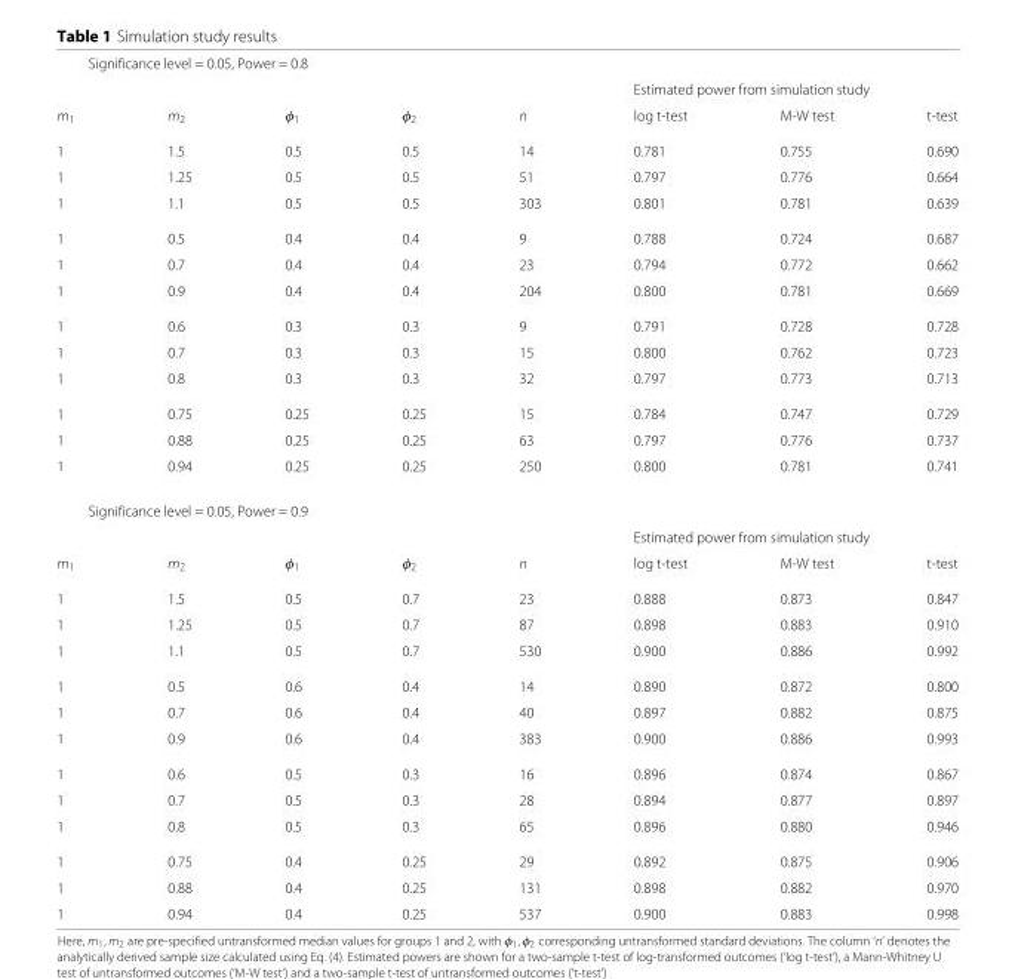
<table><tbody><tr><td colspan="8">Significance level = 0.05, Power = 0.8</td></tr><tr><td></td><td></td><td></td><td></td><td></td><td colspan="3">Estimated power from simulation study</td></tr><tr><td>m<sub>1</sub></td><td>m<sub>2</sub></td><td>φ<sub>1</sub></td><td>φ<sub>2</sub></td><td>n</td><td>log t-test</td><td>M-W test</td><td>t-test</td></tr><tr><td>1</td><td>1.5</td><td>0.5</td><td>0.5</td><td>14</td><td>0.781</td><td>0.755</td><td>0.690</td></tr><tr><td>1</td><td>1.25</td><td>0.5</td><td>0.5</td><td>51</td><td>0.797</td><td>0.776</td><td>0.664</td></tr><tr><td>1</td><td>1.1</td><td>0.5</td><td>0.5</td><td>303</td><td>0.801</td><td>0.781</td><td>0.639</td></tr><tr><td>1</td><td>0.5</td><td>0.4</td><td>0.4</td><td>9</td><td>0.788</td><td>0.724</td><td>0.687</td></tr><tr><td>1</td><td>0.7</td><td>0.4</td><td>0.4</td><td>23</td><td>0.794</td><td>0.772</td><td>0.662</td></tr><tr><td>1</td><td>0.9</td><td>0.4</td><td>0.4</td><td>204</td><td>0.800</td><td>0.781</td><td>0.669</td></tr><tr><td>1</td><td>0.6</td><td>0.3</td><td>0.3</td><td>9</td><td>0.791</td><td>0.728</td><td>0.728</td></tr><tr><td>1</td><td>0.7</td><td>0.3</td><td>0.3</td><td>15</td><td>0.800</td><td>0.762</td><td>0.723</td></tr><tr><td>1</td><td>0.8</td><td>0.3</td><td>0.3</td><td>32</td><td>0.797</td><td>0.773</td><td>0.713</td></tr><tr><td>1</td><td>0.75</td><td>0.25</td><td>0.25</td><td>15</td><td>0.784</td><td>0.747</td><td>0.729</td></tr><tr><td>1</td><td>0.88</td><td>0.25</td><td>0.25</td><td>63</td><td>0.797</td><td>0.776</td><td>0.737</td></tr><tr><td>1</td><td>0.94</td><td>0.25</td><td>0.25</td><td>250</td><td>0.800</td><td>0.781</td><td>0.741</td></tr><tr><td colspan="8">Significance level = 0.05, Power = 0.9</td></tr><tr><td></td><td></td><td></td><td></td><td></td><td colspan="3">Estimated power from simulation study</td></tr><tr><td>m<sub>1</sub></td><td>m<sub>2</sub></td><td>φ<sub>1</sub></td><td>φ<sub>2</sub></td><td>n</td><td>log t-test</td><td>M-W test</td><td>t-test</td></tr><tr><td>1</td><td>1.5</td><td>0.5</td><td>0.7</td><td>23</td><td>0.888</td><td>0.873</td><td>0.847</td></tr><tr><td>1</td><td>1.25</td><td>0.5</td><td>0.7</td><td>87</td><td>0.898</td><td>0.883</td><td>0.910</td></tr><tr><td>1</td><td>1.1</td><td>0.5</td><td>0.7</td><td>530</td><td>0.900</td><td>0.886</td><td>0.992</td></tr><tr><td>1</td><td>0.5</td><td>0.6</td><td>0.4</td><td>14</td><td>0.890</td><td>0.872</td><td>0.800</td></tr><tr><td>1</td><td>0.7</td><td>0.6</td><td>0.4</td><td>40</td><td>0.897</td><td>0.882</td><td>0.875</td></tr><tr><td>1</td><td>0.9</td><td>0.6</td><td>0.4</td><td>383</td><td>0.900</td><td>0.886</td><td>0.993</td></tr><tr><td>1</td><td>0.6</td><td>0.5</td><td>0.3</td><td>16</td><td>0.896</td><td>0.874</td><td>0.867</td></tr><tr><td>1</td><td>0.7</td><td>0.5</td><td>0.3</td><td>28</td><td>0.894</td><td>0.877</td><td>0.897</td></tr><tr><td>1</td><td>0.8</td><td>0.5</td><td>0.3</td><td>65</td><td>0.896</td><td>0.880</td><td>0.946</td></tr><tr><td>1</td><td>0.75</td><td>0.4</td><td>0.25</td><td>29</td><td>0.892</td><td>0.875</td><td>0.906</td></tr><tr><td>1</td><td>0.88</td><td>0.4</td><td>0.25</td><td>131</td><td>0.898</td><td>0.882</td><td>0.970</td></tr><tr><td>1</td><td>0.94</td><td>0.4</td><td>0.25</td><td>537</td><td>0.900</td><td>0.883</td><td>0.998</td></tr></tbody></table>